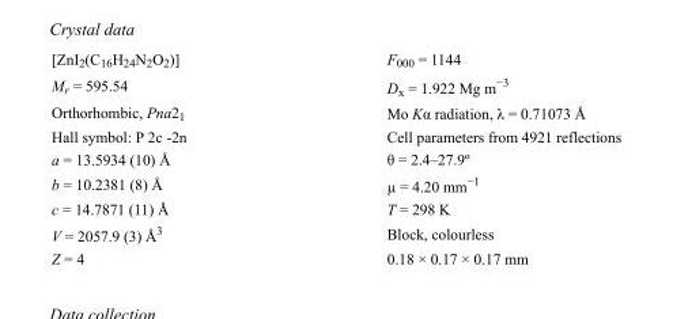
<table><tbody><tr><td>[ZnI<sub>2</sub>(C<sub>16</sub>H<sub>24</sub>N<sub>2</sub>O<sub>2</sub>)]</td><td>F000 = 1144</td></tr><tr><td>M<sub>r</sub> = 595.54</td><td>D<sub>x</sub> = 1.922 Mg m<sup>−3</sup></td></tr><tr><td>Orthorhombic, Pna2<sub>1</sub></td><td>Mo Kα radiation, λ = 0.71073 Å</td></tr><tr><td>Hall symbol: P 2c -2n</td><td>Cell parameters from 4921 reflections</td></tr><tr><td>a = 13.5934 (10) Å</td><td>θ = 2.4–27.9º</td></tr><tr><td>b = 10.2381 (8) Å</td><td>µ = 4.20 mm<sup>−1</sup></td></tr><tr><td>c = 14.7871 (11) Å</td><td>T = 298 K</td></tr><tr><td>V = 2057.9 (3) Å<sup>3</sup></td><td>Block, colourless</td></tr><tr><td>Z = 4</td><td>0.18 × 0.17 × 0.17 mm</td></tr></tbody></table>